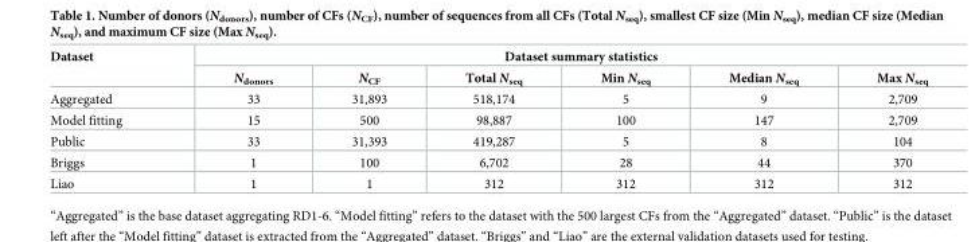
<table><thead><tr><td rowspan="2">Dataset</td><td colspan="6">Dataset summary statistics</td></tr><tr><td>N<sub>donors</sub></td><td>N<sub>CF</sub></td><td>Total N<sub>seq</sub></td><td>Min N<sub>seq</sub></td><td>Median N<sub>seq</sub></td><td>Max N<sub>seq</sub></td></tr></thead><tbody><tr><td>Aggregated</td><td>33</td><td>31,893</td><td>518,174</td><td>5</td><td>9</td><td>2,709</td></tr><tr><td>Model fitting</td><td>15</td><td>500</td><td>98,887</td><td>100</td><td>147</td><td>2,709</td></tr><tr><td>Public</td><td>33</td><td>31,393</td><td>419,287</td><td>5</td><td>8</td><td>104</td></tr><tr><td>Briggs</td><td>1</td><td>100</td><td>6,702</td><td>28</td><td>44</td><td>370</td></tr><tr><td>Liao</td><td>1</td><td>1</td><td>312</td><td>312</td><td>312</td><td>312</td></tr></tbody></table>